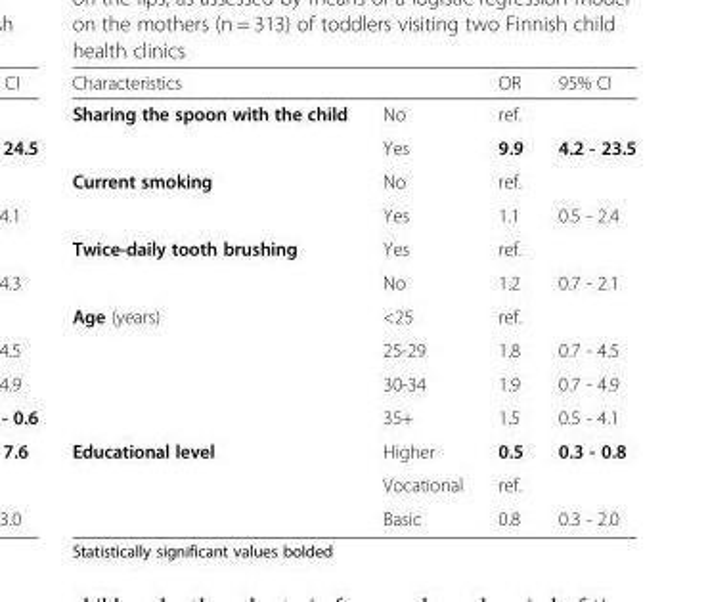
<table><thead><tr><td>Characteristics</td><td></td><td>OR</td><td>95% CI</td></tr></thead><tbody><tr><td rowspan="2">Sharing the spoon with the child</td><td>No</td><td>ref.</td><td></td></tr><tr><td>Yes</td><td>9.9</td><td>4.2 - 23.5</td></tr><tr><td rowspan="2">Current smoking</td><td>No</td><td>ref.</td><td></td></tr><tr><td>Yes</td><td>1.1</td><td>0.5 - 2.4</td></tr><tr><td rowspan="2">Twice-daily tooth brushing</td><td>Yes</td><td>ref.</td><td></td></tr><tr><td>No</td><td>1.2</td><td>0.7 - 2.1</td></tr><tr><td rowspan="4">Age (years)</td><td>&lt;25</td><td>ref.</td><td></td></tr><tr><td>25-29</td><td>1.8</td><td>0.7 - 4.5</td></tr><tr><td>30-34</td><td>1.9</td><td>0.7 - 4.9</td></tr><tr><td>35+</td><td>1.5</td><td>0.5 - 4.1</td></tr><tr><td rowspan="3">Educational level</td><td>Higher</td><td>0.5</td><td>0.3 - 0.8</td></tr><tr><td>Vocational</td><td>ref.</td><td></td></tr><tr><td>Basic</td><td>0.8</td><td>0.3 - 2.0</td></tr></tbody></table>